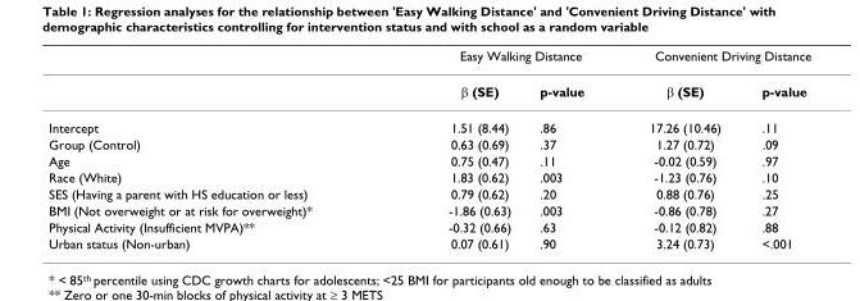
<table><thead><tr><td rowspan="2"></td><td colspan="2">Easy Walking Distance</td><td colspan="2">Convenient Driving Distance</td></tr><tr><td>β (SE)</td><td>p-value</td><td>β (SE)</td><td>p-value</td></tr></thead><tbody><tr><td>Intercept</td><td>1.51 (8.44)</td><td>.86</td><td>17.26 (10.46)</td><td>.11</td></tr><tr><td>Group (Control)</td><td>0.63 (0.69)</td><td>.37</td><td>1.27 (0.72)</td><td>.09</td></tr><tr><td>Age</td><td>0.75 (0.47)</td><td>.11</td><td>-0.02 (0.59)</td><td>.97</td></tr><tr><td>Race (White)</td><td>1.83 (0.62)</td><td>.003</td><td>-1.23 (0.76)</td><td>.10</td></tr><tr><td>SES (Having a parent with HS education or less)</td><td>0.79 (0.62)</td><td>.20</td><td>0.88 (0.76)</td><td>.25</td></tr><tr><td>BMI (Not overweight or at risk for overweight)*</td><td>-1.86 (0.63)</td><td>.003</td><td>-0.86 (0.78)</td><td>.27</td></tr><tr><td>Physical Activity (Insufficient MVPA)**</td><td>-0.32 (0.66)</td><td>.63</td><td>-0.12 (0.82)</td><td>.88</td></tr><tr><td>Urban status (Non-urban)</td><td>0.07 (0.61)</td><td>.90</td><td>3.24 (0.73)</td><td>&lt;.001</td></tr></tbody></table>